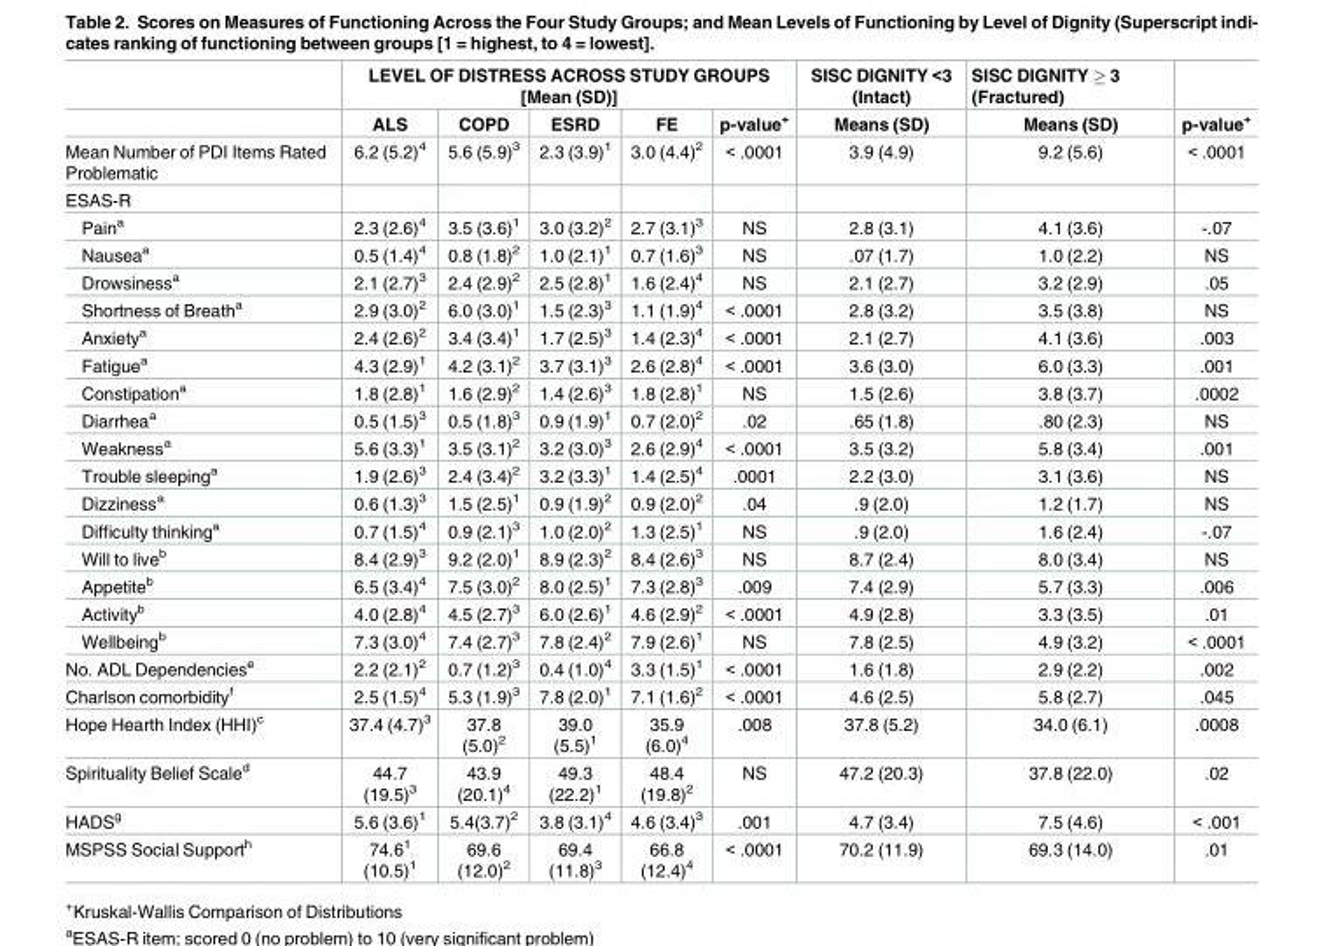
<table><thead><tr><td rowspan="2"></td><td colspan="5">LEVEL OF DISTRESS ACROSS STUDY GROUPS [Mean (SD)]</td><td rowspan="2">SISC DIGNITY &lt;3 (Intact) Means (SD)</td><td rowspan="2">SISC DIGNITY ≥ 3 (Fractured) Means (SD)</td><td rowspan="2">p-value<sup>+</sup></td></tr><tr><td>ALS</td><td>COPD</td><td>ESRD</td><td>FE</td><td>p-value<sup>+</sup></td></tr></thead><tbody><tr><td>Mean Number of PDI Items Rated Problematic</td><td>6.2 (5.2)<sup>4</sup></td><td>5.6 (5.9)<sup>3</sup></td><td>2.3 (3.9)<sup>1</sup></td><td>3.0 (4.4)<sup>2</sup></td><td>&lt; .0001</td><td>3.9 (4.9)</td><td>9.2 (5.6)</td><td>&lt; .0001</td></tr><tr><td colspan="9">ESAS-R</td></tr><tr><td>Pain<sup>a</sup></td><td>2.3 (2.6)<sup>4</sup></td><td>3.5 (3.6)<sup>1</sup></td><td>3.0 (3.2)<sup>2</sup></td><td>2.7 (3.1)<sup>3</sup></td><td>NS</td><td>2.8 (3.1)</td><td>4.1 (3.6)</td><td>-.07</td></tr><tr><td>Nausea<sup>a</sup></td><td>0.5 (1.4)<sup>4</sup></td><td>0.8 (1.8)<sup>2</sup></td><td>1.0 (2.1)<sup>1</sup></td><td>0.7 (1.6)<sup>3</sup></td><td>NS</td><td>.07 (1.7)</td><td>1.0 (2.2)</td><td>NS</td></tr><tr><td>Drowsiness<sup>a</sup></td><td>2.1 (2.7)<sup>3</sup></td><td>2.4 (2.9)<sup>2</sup></td><td>2.5 (2.8)<sup>1</sup></td><td>1.6 (2.4)<sup>4</sup></td><td>NS</td><td>2.1 (2.7)</td><td>3.2 (2.9)</td><td>.05</td></tr><tr><td>Shortness of Breath<sup>a</sup></td><td>2.9 (3.0)<sup>2</sup></td><td>6.0 (3.0)<sup>1</sup></td><td>1.5 (2.3)<sup>3</sup></td><td>1.1 (1.9)<sup>4</sup></td><td>&lt; .0001</td><td>2.8 (3.2)</td><td>3.5 (3.8)</td><td>NS</td></tr><tr><td>Anxiety<sup>a</sup></td><td>2.4 (2.6)<sup>2</sup></td><td>3.4 (3.4)<sup>1</sup></td><td>1.7 (2.5)<sup>3</sup></td><td>1.4 (2.3)<sup>4</sup></td><td>&lt; .0001</td><td>2.1 (2.7)</td><td>4.1 (3.6)</td><td>.003</td></tr><tr><td>Fatigue<sup>a</sup></td><td>4.3 (2.9)<sup>1</sup></td><td>4.2 (3.1)<sup>2</sup></td><td>3.7 (3.1)<sup>3</sup></td><td>2.6 (2.8)<sup>4</sup></td><td>&lt; .0001</td><td>3.6 (3.0)</td><td>6.0 (3.3)</td><td>.001</td></tr><tr><td>Constipation<sup>a</sup></td><td>1.8 (2.8)<sup>1</sup></td><td>1.6 (2.9)<sup>2</sup></td><td>1.4 (2.6)<sup>3</sup></td><td>1.8 (2.8)<sup>1</sup></td><td>NS</td><td>1.5 (2.6)</td><td>3.8 (3.7)</td><td>.0002</td></tr><tr><td>Diarrhea<sup>a</sup></td><td>0.5 (1.5)<sup>3</sup></td><td>0.5 (1.8)<sup>3</sup></td><td>0.9 (1.9)<sup>1</sup></td><td>0.7 (2.0)<sup>2</sup></td><td>.02</td><td>.65 (1.8)</td><td>.80 (2.3)</td><td>NS</td></tr><tr><td>Weakness<sup>a</sup></td><td>5.6 (3.3)<sup>1</sup></td><td>3.5 (3.1)<sup>2</sup></td><td>3.2 (3.0)<sup>3</sup></td><td>2.6 (2.9)<sup>4</sup></td><td>&lt; .0001</td><td>3.5 (3.2)</td><td>5.8 (3.4)</td><td>.001</td></tr><tr><td>Trouble sleeping<sup>a</sup></td><td>1.9 (2.6)<sup>3</sup></td><td>2.4 (3.4)<sup>2</sup></td><td>3.2 (3.3)<sup>1</sup></td><td>1.4 (2.5)<sup>4</sup></td><td>.0001</td><td>2.2 (3.0)</td><td>3.1 (3.6)</td><td>NS</td></tr><tr><td>Dizziness<sup>a</sup></td><td>0.6 (1.3)<sup>3</sup></td><td>1.5 (2.5)<sup>1</sup></td><td>0.9 (1.9)<sup>2</sup></td><td>0.9 (2.0)<sup>2</sup></td><td>.04</td><td>.9 (2.0)</td><td>1.2 (1.7)</td><td>NS</td></tr><tr><td>Difficulty thinking<sup>a</sup></td><td>0.7 (1.5)<sup>4</sup></td><td>0.9 (2.1)<sup>3</sup></td><td>1.0 (2.0)<sup>2</sup></td><td>1.3 (2.5)<sup>1</sup></td><td>NS</td><td>.9 (2.0)</td><td>1.6 (2.4)</td><td>-.07</td></tr><tr><td>Will to live<sup>b</sup></td><td>8.4 (2.9)<sup>3</sup></td><td>9.2 (2.0)<sup>1</sup></td><td>8.9 (2.3)<sup>2</sup></td><td>8.4 (2.6)<sup>3</sup></td><td>NS</td><td>8.7 (2.4)</td><td>8.0 (3.4)</td><td>NS</td></tr><tr><td>Appetite<sup>b</sup></td><td>6.5 (3.4)<sup>4</sup></td><td>7.5 (3.0)<sup>2</sup></td><td>8.0 (2.5)<sup>1</sup></td><td>7.3 (2.8)<sup>3</sup></td><td>.009</td><td>7.4 (2.9)</td><td>5.7 (3.3)</td><td>.006</td></tr><tr><td>Activity<sup>b</sup></td><td>4.0 (2.8)<sup>4</sup></td><td>4.5 (2.7)<sup>3</sup></td><td>6.0 (2.6)<sup>1</sup></td><td>4.6 (2.9)<sup>2</sup></td><td>&lt; .0001</td><td>4.9 (2.8)</td><td>3.3 (3.5)</td><td>.01</td></tr><tr><td>Wellbeing<sup>b</sup></td><td>7.3 (3.0)<sup>4</sup></td><td>7.4 (2.7)<sup>3</sup></td><td>7.8 (2.4)<sup>2</sup></td><td>7.9 (2.6)<sup>1</sup></td><td>NS</td><td>7.8 (2.5)</td><td>4.9 (3.2)</td><td>&lt; .0001</td></tr><tr><td>No. ADL Dependencies<sup>e</sup></td><td>2.2 (2.1)<sup>2</sup></td><td>0.7 (1.2)<sup>3</sup></td><td>0.4 (1.0)<sup>4</sup></td><td>3.3 (1.5)<sup>1</sup></td><td>&lt; .0001</td><td>1.6 (1.8)</td><td>2.9 (2.2)</td><td>.002</td></tr><tr><td>Charlson comorbidity<sup>f</sup></td><td>2.5 (1.5)<sup>4</sup></td><td>5.3 (1.9)<sup>3</sup></td><td>7.8 (2.0)<sup>1</sup></td><td>7.1 (1.6)<sup>2</sup></td><td>&lt; .0001</td><td>4.6 (2.5)</td><td>5.8 (2.7)</td><td>.045</td></tr><tr><td>Hope Hearth Index (HHI)<sup>c</sup></td><td>37.4 (4.7)<sup>3</sup></td><td>37.8 (5.0)<sup>2</sup></td><td>39.0 (5.5)<sup>1</sup></td><td>35.9 (6.0)<sup>4</sup></td><td>.008</td><td>37.8 (5.2)</td><td>34.0 (6.1)</td><td>.0008</td></tr><tr><td>Spirituality Belief Scale<sup>d</sup></td><td>44.7 (19.5)<sup>3</sup></td><td>43.9 (20.1)<sup>4</sup></td><td>49.3 (22.2)<sup>1</sup></td><td>48.4 (19.8)<sup>2</sup></td><td>NS</td><td>47.2 (20.3)</td><td>37.8 (22.0)</td><td>.02</td></tr><tr><td>HADS<sup>g</sup></td><td>5.6 (3.6)<sup>1</sup></td><td>5.4(3.7)<sup>2</sup></td><td>3.8 (3.1)<sup>4</sup></td><td>4.6 (3.4)<sup>3</sup></td><td>.001</td><td>4.7 (3.4)</td><td>7.5 (4.6)</td><td>&lt; .001</td></tr><tr><td>MSPSS Social Support<sup>h</sup></td><td>74.6<sup>1</sup> (10.5)<sup>1</sup></td><td>69.6 (12.0)<sup>2</sup></td><td>69.4 (11.8)<sup>3</sup></td><td>66.8 (12.4)<sup>4</sup></td><td>&lt; .0001</td><td>70.2 (11.9)</td><td>69.3 (14.0)</td><td>.01</td></tr></tbody></table>